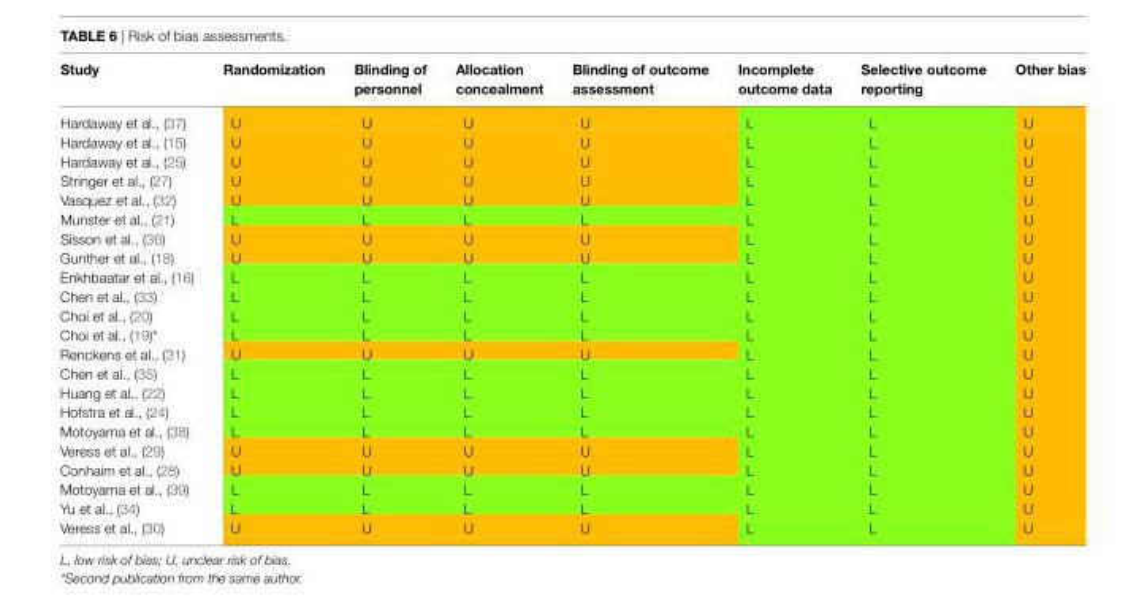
<table><thead><tr><td>Study</td><td>Randomization</td><td>Blinding of personnel</td><td>allocation concealment</td><td>Blinding of outcome assessment</td><td>incomplete outcome data</td><td>Selective outcome reporting</td><td>Other bias</td></tr></thead><tbody><tr><td>Hardaway et al., (37)</td><td>U</td><td>U</td><td>U</td><td>U</td><td>L</td><td>L</td><td>U</td></tr><tr><td>Hardaway et al., (15)</td><td>U</td><td>U</td><td>U</td><td>U</td><td>L</td><td>L</td><td>U</td></tr><tr><td>Hardaway et al., (25)</td><td>U</td><td>U</td><td>U</td><td>U</td><td>L</td><td>L</td><td>U</td></tr><tr><td>Stringer et al., (27)</td><td>U</td><td>U</td><td>U</td><td>U</td><td>L</td><td>L</td><td>U</td></tr><tr><td>Vasquez et al., (32)</td><td>U</td><td>U</td><td>U</td><td>U</td><td>L</td><td>L</td><td>U</td></tr><tr><td>Munster et al., (21)</td><td>L</td><td>L</td><td>L</td><td>L</td><td>L</td><td>L</td><td>U</td></tr><tr><td>Sisson et al., (36)</td><td>U</td><td>U</td><td>U</td><td>U</td><td>L</td><td>L</td><td>U</td></tr><tr><td>Gunther et al., (18)</td><td>U</td><td>U</td><td>U</td><td>U</td><td>L</td><td>L</td><td>U</td></tr><tr><td>Enkhbaatar et al., (16)</td><td>L</td><td>L</td><td>L</td><td>L</td><td>L</td><td>L</td><td>U</td></tr><tr><td>Chen et al., (33)</td><td>L</td><td>L</td><td>L</td><td>L</td><td>L</td><td>L</td><td>U</td></tr><tr><td>Choi et al., (20)</td><td>L</td><td>L</td><td>L</td><td>L</td><td>L</td><td>L</td><td>U</td></tr><tr><td>Choi et al., (19)*</td><td>L</td><td>L</td><td>L</td><td>L</td><td>L</td><td>L</td><td>U</td></tr><tr><td>Renckens et al., (31)</td><td>U</td><td>U</td><td>U</td><td>U</td><td>L</td><td>L</td><td>U</td></tr><tr><td>Chen et al., (35)</td><td>L</td><td>L</td><td>L</td><td>L</td><td>L</td><td>L</td><td>U</td></tr><tr><td>Huang et al., (22)</td><td>L</td><td>L</td><td>L</td><td>L</td><td>L</td><td>L</td><td>U</td></tr><tr><td>Hofstra et al., (24)</td><td>L</td><td>L</td><td>L</td><td>L</td><td>L</td><td>L</td><td>U</td></tr><tr><td>Motoyama et al., (38)</td><td>L</td><td>L</td><td>L</td><td>L</td><td>L</td><td>L</td><td>U</td></tr><tr><td>Veress et al., (29)</td><td>U</td><td>U</td><td>U</td><td>U</td><td>L</td><td>L</td><td>U</td></tr><tr><td>Conhaim et al., (28)</td><td>U</td><td>U</td><td>U</td><td>U</td><td>L</td><td>L</td><td>U</td></tr><tr><td>Motoyama et al., (39)</td><td>L</td><td>L</td><td>L</td><td>L</td><td>L</td><td>L</td><td>U</td></tr><tr><td>Yu et al., (34)</td><td>L</td><td>L</td><td>L</td><td>L</td><td>L</td><td>L</td><td>U</td></tr><tr><td>Veress et al., (30)</td><td>U</td><td>U</td><td>U</td><td>U</td><td>L</td><td>L</td><td>U</td></tr></tbody></table>